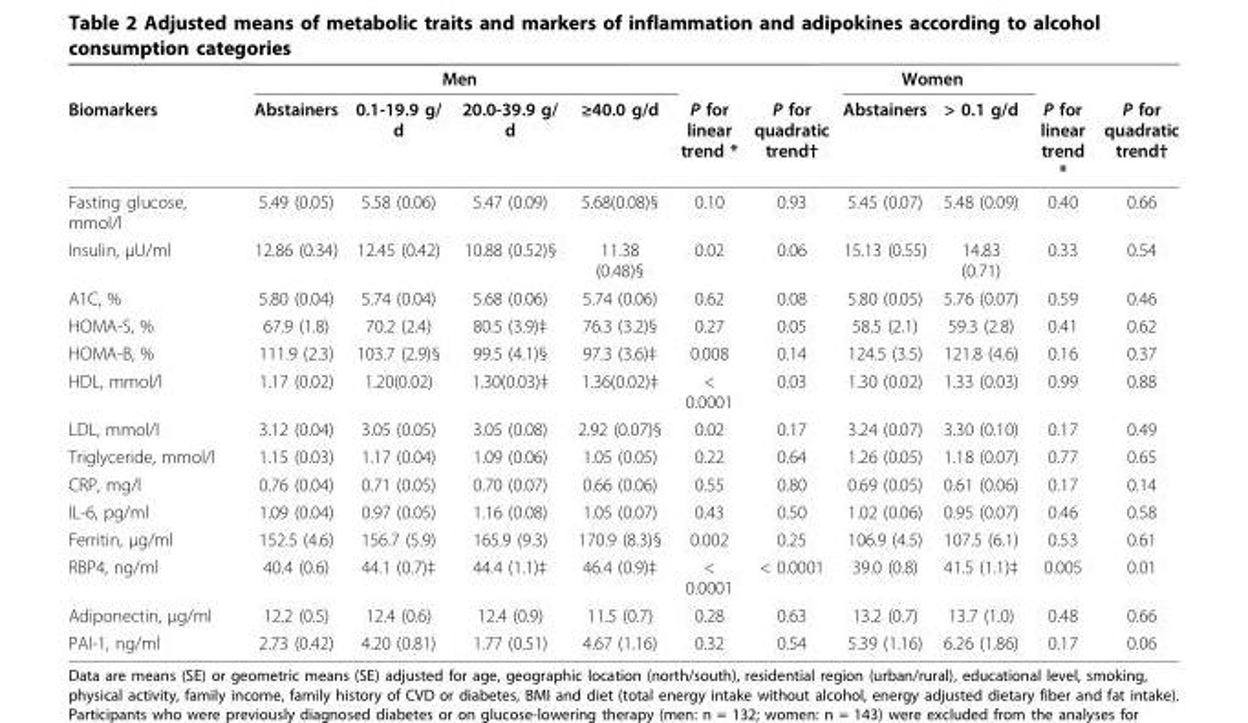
<table><thead><tr><td rowspan="2">Biomarkers</td><td colspan="4">Men</td><td rowspan="2">P for linear trend *</td><td rowspan="2">P for quadratic trend†</td><td colspan="2">Women</td><td rowspan="2">P for linear trend *</td><td rowspan="2">P for quadratic trend†</td></tr><tr><td>Abstainers</td><td>0.1-19.9 g/ d</td><td>20.0-39.9 g/ d</td><td>≥40.0 g/d</td><td>Abstainers</td><td>&gt; 0.1 g/d</td></tr></thead><tbody><tr><td>Fasting glucose, mmol/l</td><td>5.49 (0.05)</td><td>5.58 (0.06)</td><td>5.47 (0.09)</td><td>5.68(0.08)§</td><td>0.10</td><td>0.93</td><td>5.45 (0.07)</td><td>5.48 (0.09)</td><td>0.40</td><td>0.66</td></tr><tr><td>Insulin, μU/ml</td><td>12.86 (0.34)</td><td>12.45 (0.42)</td><td>10.88 (0.52)§</td><td>11.38 (0.48)§</td><td>0.02</td><td>0.06</td><td>15.13 (0.55)</td><td>14.83 (0.71)</td><td>0.33</td><td>0.54</td></tr><tr><td>A1C, %</td><td>5.80 (0.04)</td><td>5.74 (0.04)</td><td>5.68 (0.06)</td><td>5.74 (0.06)</td><td>0.62</td><td>0.08</td><td>5.80 (0.05)</td><td>5.76 (0.07)</td><td>0.59</td><td>0.46</td></tr><tr><td>HOMA-S, %</td><td>67.9 (1.8)</td><td>70.2 (2.4)</td><td>80.5 (3.9)‡</td><td>76.3 (3.2)§</td><td>0.27</td><td>0.05</td><td>58.5 (2.1)</td><td>59.3 (2.8)</td><td>0.41</td><td>0.62</td></tr><tr><td>HOMA-B, %</td><td>111.9 (2.3)</td><td>103.7 (2.9)§</td><td>99.5 (4.1)§</td><td>97.3 (3.6)‡</td><td>0.008</td><td>0.14</td><td>124.5 (3.5)</td><td>121.8 (4.6)</td><td>0.16</td><td>0.37</td></tr><tr><td>HDL, mmol/l</td><td>1.17 (0.02)</td><td>1.20(0.02)</td><td>1.30(0.03)‡</td><td>1.36(0.02)‡</td><td>&lt; 0.0001</td><td>0.03</td><td>1.30 (0.02)</td><td>1.33 (0.03)</td><td>0.99</td><td>0.88</td></tr><tr><td>LDL, mmol/l</td><td>3.12 (0.04)</td><td>3.05 (0.05)</td><td>3.05 (0.08)</td><td>2.92 (0.07)§</td><td>0.02</td><td>0.17</td><td>3.24 (0.07)</td><td>3.30 (0.10)</td><td>0.17</td><td>0.49</td></tr><tr><td>Triglyceride, mmol/l</td><td>1.15 (0.03)</td><td>1.17 (0.04)</td><td>1.09 (0.06)</td><td>1.05 (0.05)</td><td>0.22</td><td>0.64</td><td>1.26 (0.05)</td><td>1.18 (0.07)</td><td>0.77</td><td>0.65</td></tr><tr><td>CRP, mg/l</td><td>0.76 (0.04)</td><td>0.71 (0.05)</td><td>0.70 (0.07)</td><td>0.66 (0.06)</td><td>0.55</td><td>0.80</td><td>0.69 (0.05)</td><td>0.61 (0.06)</td><td>0.17</td><td>0.14</td></tr><tr><td>IL-6, pg/ml</td><td>1.09 (0.04)</td><td>0.97 (0.05)</td><td>1.16 (0.08)</td><td>1.05 (0.07)</td><td>0.43</td><td>0.50</td><td>1.02 (0.06)</td><td>0.95 (0.07)</td><td>0.46</td><td>0.58</td></tr><tr><td>Ferritin, μg/ml</td><td>152.5 (4.6)</td><td>156.7 (5.9)</td><td>165.9 (9.3)</td><td>170.9 (8.3)§</td><td>0.002</td><td>0.25</td><td>106.9 (4.5)</td><td>107.5 (6.1)</td><td>0.53</td><td>0.61</td></tr><tr><td>RBP4, ng/ml</td><td>40.4 (0.6)</td><td>44.1 (0.7)‡</td><td>44.4 (1.1)‡</td><td>46.4 (0.9)‡</td><td>&lt; 0.0001</td><td>&lt; 0.0001</td><td>39.0 (0.8)</td><td>41.5 (1.1)‡</td><td>0.005</td><td>0.01</td></tr><tr><td>Adiponectin, μg/ml</td><td>12.2 (0.5)</td><td>12.4 (0.6)</td><td>12.4 (0.9)</td><td>11.5 (0.7)</td><td>0.28</td><td>0.63</td><td>13.2 (0.7)</td><td>13.7 (1.0)</td><td>0.48</td><td>0.66</td></tr><tr><td>PAI-1, ng/ml</td><td>2.73 (0.42)</td><td>4.20 (0.81)</td><td>1.77 (0.51)</td><td>4.67 (1.16)</td><td>0.32</td><td>0.54</td><td>5.39 (1.16)</td><td>6.26 (1.86)</td><td>0.17</td><td>0.06</td></tr></tbody></table>